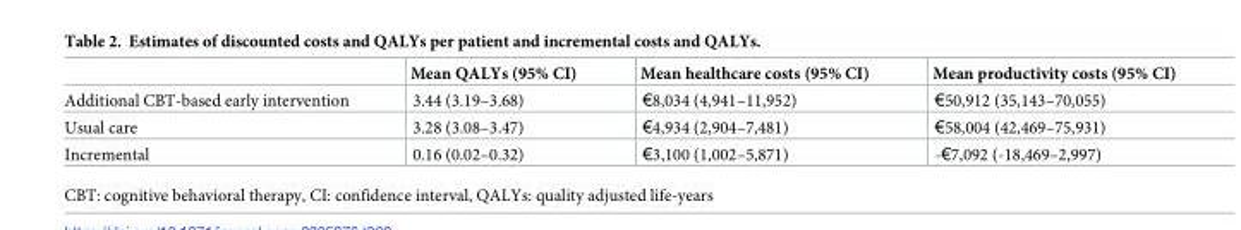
<table><thead><tr><td></td><td>Mean QALYs (95% CI)</td><td>Mean healthcare costs (95% CI)</td><td>Mean productivity costs (95% CI)</td></tr></thead><tbody><tr><td>Additional CBT-based early intervention</td><td>3.44 (3.19–3.68)</td><td>€8,034 (4,941–11,952)</td><td>€50,912 (35,143–70,055)</td></tr><tr><td>Usual care</td><td>3.28 (3.08–3.47)</td><td>€4,934 (2,904–7,481)</td><td>€58,004 (42,469–75,931)</td></tr><tr><td>Incremental</td><td>0.16 (0.02–0.32)</td><td>€3,100 (1,002–5,871)</td><td>-€7,092 (-18,469–2,997)</td></tr></tbody></table>